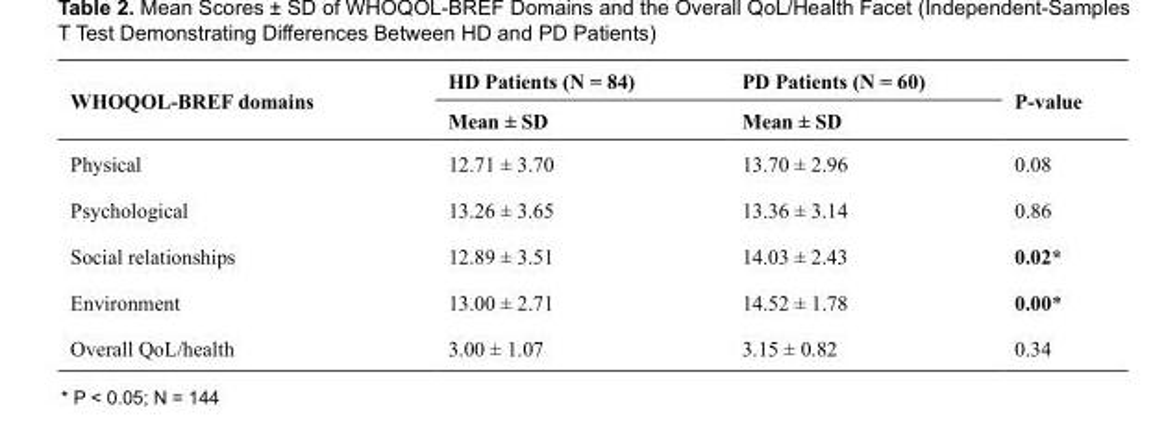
<table><thead><tr><td rowspan="2">WHOQOL-BREF domains</td><td rowspan="2">HD Patients (N = 84) Mean ± SD</td><td rowspan="2">PD Patients (N = 60) Mean ± SD</td><td rowspan="2">P-value</td></tr><tr></tr></thead><tbody><tr><td>Physical</td><td>12.71 ± 3.70</td><td>13.70 ± 2.96</td><td>0.08</td></tr><tr><td>Psychological</td><td>13.26 ± 3.65</td><td>13.36 ± 3.14</td><td>0.86</td></tr><tr><td>Social relationships</td><td>12.89 ± 3.51</td><td>14.03 ± 2.43</td><td>0.02*</td></tr><tr><td>Environment</td><td>13.00 ± 2.71</td><td>14.52 ± 1.78</td><td>0.00*</td></tr><tr><td>Overall QoL/health</td><td>3.00 ± 1.07</td><td>3.15 ± 0.82</td><td>0.34</td></tr></tbody></table>